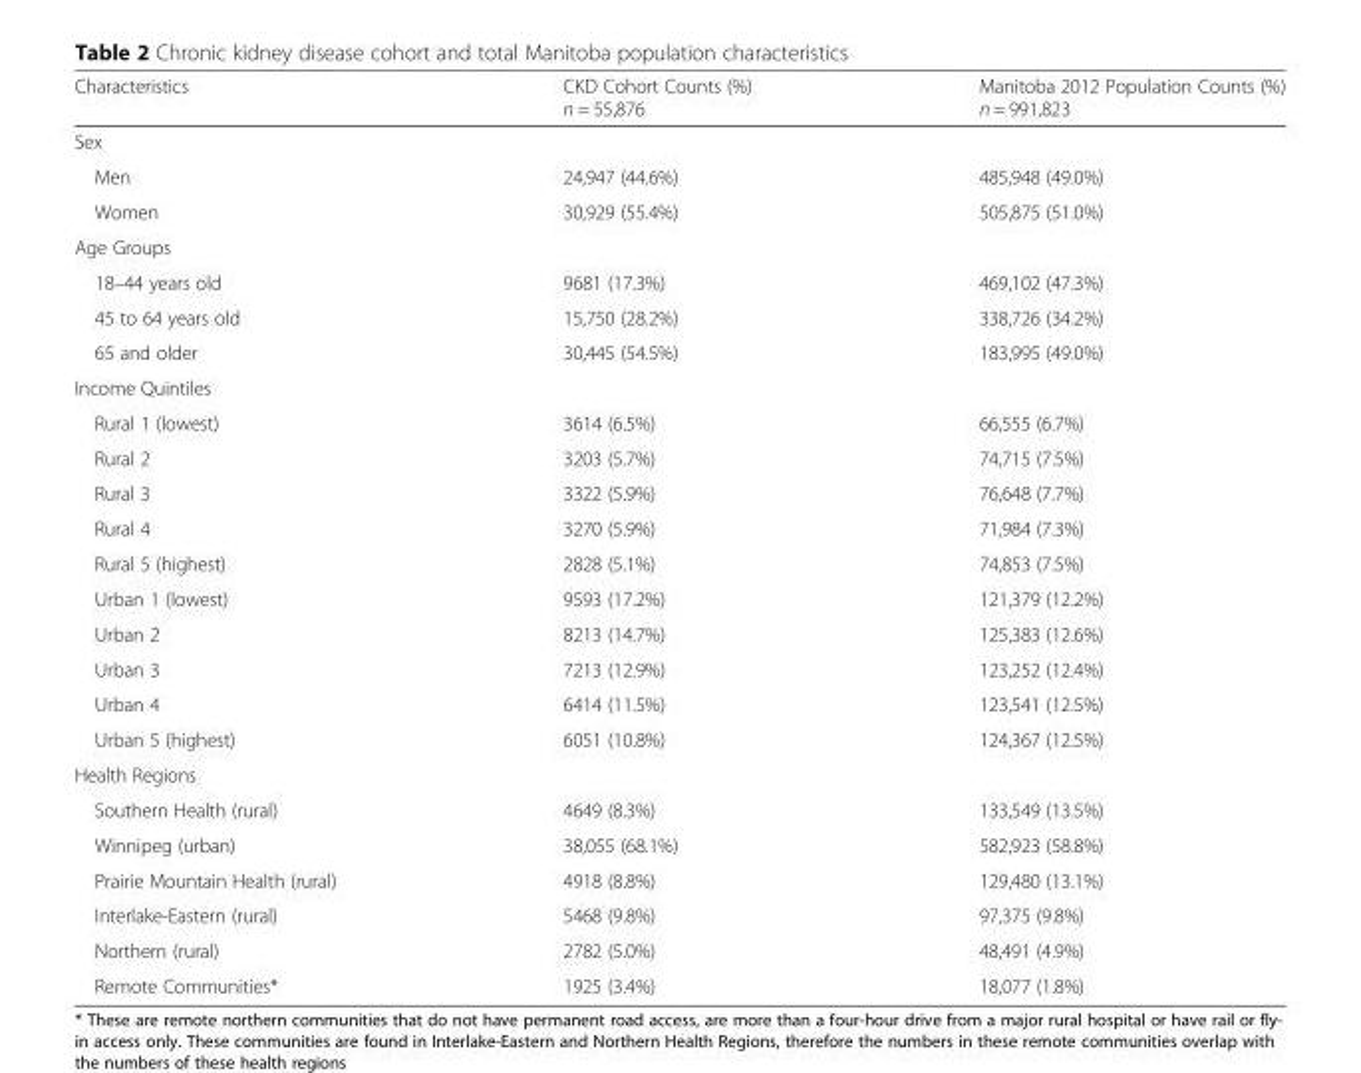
<table><thead><tr><td>Characteristics</td><td>CKD Cohort Counts (%) n = 55,876</td><td>Manitoba 2012 Population Counts (%) n = 991,823</td></tr></thead><tbody><tr><td colspan="3">Sex</td></tr><tr><td>Men</td><td>24,947 (44.6%)</td><td>485,948 (49.0%)</td></tr><tr><td>Women</td><td>30,929 (55.4%)</td><td>505,875 (51.0%)</td></tr><tr><td colspan="3">Age Groups</td></tr><tr><td>18–44 years old</td><td>9681 (17.3%)</td><td>469,102 (47.3%)</td></tr><tr><td>45 to 64 years old</td><td>15,750 (28.2%)</td><td>338,726 (34.2%)</td></tr><tr><td>65 and older</td><td>30,445 (54.5%)</td><td>183,995 (49.0%)</td></tr><tr><td colspan="3">Income Quintiles</td></tr><tr><td>Rural 1 (lowest)</td><td>3614 (6.5%)</td><td>66,555 (6.7%)</td></tr><tr><td>Rural 2</td><td>3203 (5.7%)</td><td>74,715 (7.5%)</td></tr><tr><td>Rural 3</td><td>3322 (5.9%)</td><td>76,648 (7.7%)</td></tr><tr><td>Rural 4</td><td>3270 (5.9%)</td><td>71,984 (7.3%)</td></tr><tr><td>Rural 5 (highest)</td><td>2828 (5.1%)</td><td>74,853 (7.5%)</td></tr><tr><td>Urban 1 (lowest)</td><td>9593 (17.2%)</td><td>121,379 (12.2%)</td></tr><tr><td>Urban 2</td><td>8213 (14.7%)</td><td>125,383 (12.6%)</td></tr><tr><td>Urban 3</td><td>7213 (12.9%)</td><td>123,252 (12.4%)</td></tr><tr><td>Urban 4</td><td>6414 (11.5%)</td><td>123,541 (12.5%)</td></tr><tr><td>Urban 5 (highest)</td><td>6051 (10.8%)</td><td>124,367 (12.5%)</td></tr><tr><td colspan="3">Health Regions</td></tr><tr><td>Southern Health (rural)</td><td>4649 (8.3%)</td><td>133,549 (13.5%)</td></tr><tr><td>Winnipeg (urban)</td><td>38,055 (68.1%)</td><td>582,923 (58.8%)</td></tr><tr><td>Prairie Mountain Health (rural)</td><td>4918 (8.8%)</td><td>129,480 (13.1%)</td></tr><tr><td>Interlake-Eastern (rural)</td><td>5468 (9.8%)</td><td>97,375 (9.8%)</td></tr><tr><td>Northern (rural)</td><td>2782 (5.0%)</td><td>48,491 (4.9%)</td></tr><tr><td>Remote Communities*</td><td>1925 (3.4%)</td><td>18,077 (1.8%)</td></tr></tbody></table>